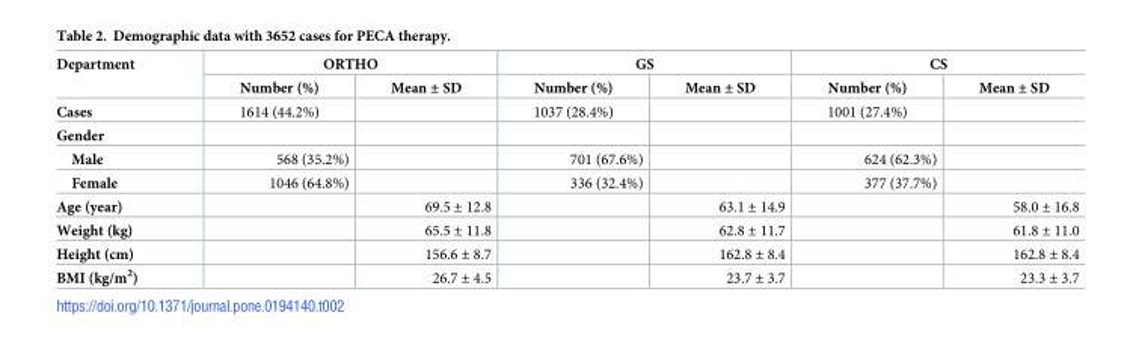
<table><thead><tr><td rowspan="2">Department</td><td colspan="2">ORTHO</td><td colspan="2">GS</td><td colspan="2">CS</td></tr><tr><td>Number (%)</td><td>Mean ± SD</td><td>Number (%)</td><td>Mean ± SD</td><td>Number (%)</td><td>Mean ± SD</td></tr></thead><tbody><tr><td>Cases</td><td>1614 (44.2%)</td><td></td><td>1037 (28.4%)</td><td></td><td>1001 (27.4%)</td><td></td></tr><tr><td colspan="7">Gender</td></tr><tr><td>Male</td><td>568 (35.2%)</td><td></td><td>701 (67.6%)</td><td></td><td>624 (62.3%)</td><td></td></tr><tr><td>Female</td><td>1046 (64.8%)</td><td></td><td>336 (32.4%)</td><td></td><td>377 (37.7%)</td><td></td></tr><tr><td>Age (year)</td><td></td><td>69.5 ± 12.8</td><td></td><td>63.1 ± 14.9</td><td></td><td>58.0 ± 16.8</td></tr><tr><td>Weight (kg)</td><td></td><td>65.5 ± 11.8</td><td></td><td>62.8 ± 11.7</td><td></td><td>61.8 ± 11.0</td></tr><tr><td>Height (cm)</td><td></td><td>156.6 ± 8.7</td><td></td><td>162.8 ± 8.4</td><td></td><td>162.8 ± 8.4</td></tr><tr><td>BMI (kg/m<sup>2</sup>)</td><td></td><td>26.7 ± 4.5</td><td></td><td>23.7 ± 3.7</td><td></td><td>23.3 ± 3.7</td></tr></tbody></table>